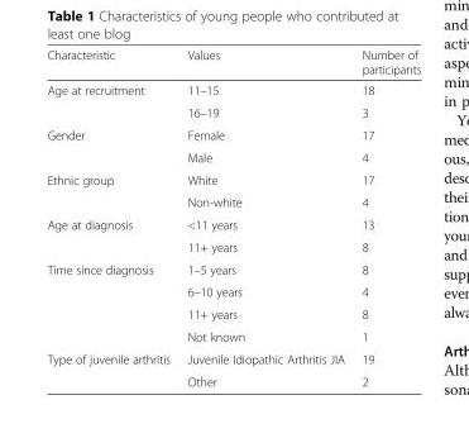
<table><thead><tr><td>Characteristic</td><td>Values</td><td>Number of participants</td></tr></thead><tbody><tr><td rowspan="2">Age at recruitment</td><td>11–15</td><td>18</td></tr><tr><td>16–19</td><td>3</td></tr><tr><td rowspan="2">Gender</td><td>Female</td><td>17</td></tr><tr><td>Male</td><td>4</td></tr><tr><td rowspan="2">Ethnic group</td><td>White</td><td>17</td></tr><tr><td>Non-white</td><td>4</td></tr><tr><td rowspan="2">Age at diagnosis</td><td>&lt;11 years</td><td>13</td></tr><tr><td>11+ years</td><td>8</td></tr><tr><td rowspan="4">Time since diagnosis</td><td>1–5 years</td><td>8</td></tr><tr><td>6–10 years</td><td>4</td></tr><tr><td>11+ years</td><td>8</td></tr><tr><td>Not known</td><td>1</td></tr><tr><td rowspan="2">Type of juvenile arthritis</td><td>Juvenile Idiopathic Arthritis JIA</td><td>19</td></tr><tr><td>Other</td><td>2</td></tr></tbody></table>